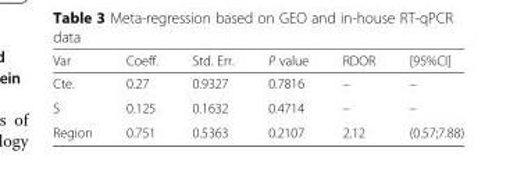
<table><thead><tr><td>Var</td><td>Coeff.</td><td>Std. Err.</td><td>P value</td><td>RDOR</td><td>[95%CI]</td></tr></thead><tbody><tr><td>Cte.</td><td>0.27</td><td>0.9327</td><td>0.7816</td><td>–</td><td>–</td></tr><tr><td>S</td><td>0.125</td><td>0.1632</td><td>0.4714</td><td>–</td><td>–</td></tr><tr><td>Region</td><td>0.751</td><td>0.5363</td><td>0.2107</td><td>2.12</td><td>(0.57;7.88)</td></tr></tbody></table>